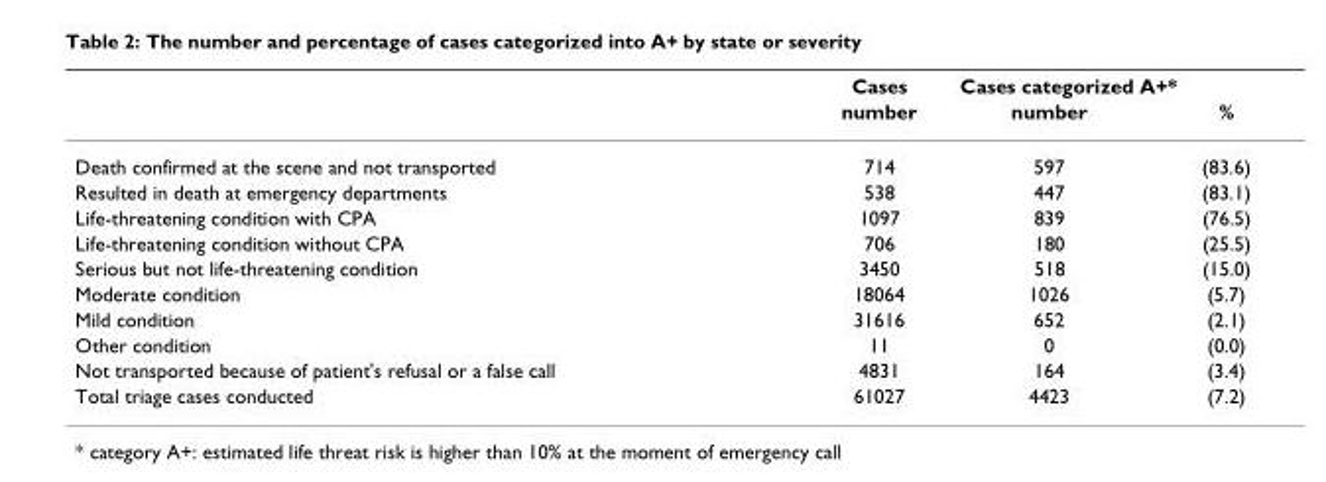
<table><thead><tr><td rowspan="2"></td><td rowspan="2">Cases number</td><td colspan="2">Cases categorized A+*</td></tr><tr><td>number</td><td>%</td></tr></thead><tbody><tr><td>Death confirmed at the scene and not transported</td><td>714</td><td>597</td><td>(83.6)</td></tr><tr><td>Resulted in death at emergency departments</td><td>538</td><td>447</td><td>(83.1)</td></tr><tr><td>Life-threatening condition with CPA</td><td>1097</td><td>839</td><td>(76.5)</td></tr><tr><td>Life-threatening condition without CPA</td><td>706</td><td>180</td><td>(25.5)</td></tr><tr><td>Serious but not life-threatening condition</td><td>3450</td><td>518</td><td>(15.0)</td></tr><tr><td>Moderate condition</td><td>18064</td><td>1026</td><td>(5.7)</td></tr><tr><td>Mild condition</td><td>31616</td><td>652</td><td>(2.1)</td></tr><tr><td>Other condition</td><td>11</td><td>0</td><td>(0.0)</td></tr><tr><td>Not transported because of patient&#x27;s refusal or a false call</td><td>4831</td><td>164</td><td>(3.4)</td></tr><tr><td>Total triage cases conducted</td><td>61027</td><td>4423</td><td>(7.2)</td></tr></tbody></table>